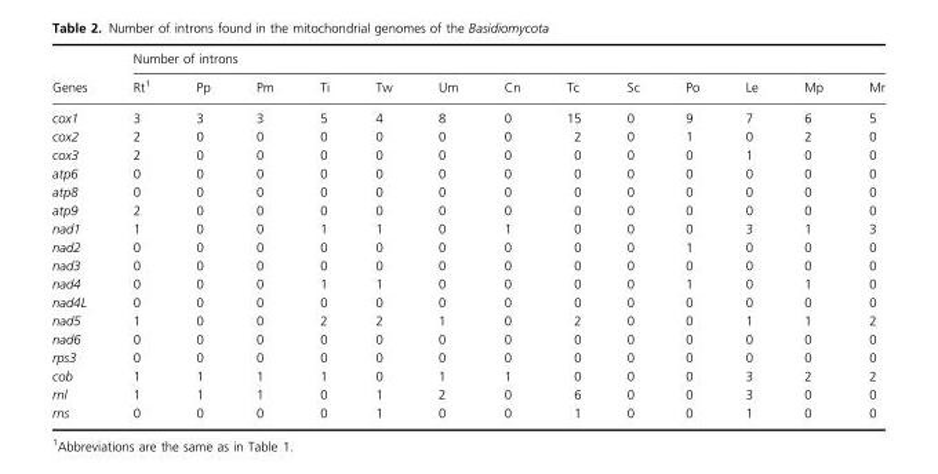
<table><thead><tr><td rowspan="2">Genes</td><td colspan="13">Number of introns</td></tr><tr><td>Rt<sup>1</sup></td><td>Pp</td><td>Pm</td><td>Ti</td><td>Tw</td><td>Um</td><td>Cn</td><td>Tc</td><td>Sc</td><td>Po</td><td>Le</td><td>Mp</td><td>Mr</td></tr></thead><tbody><tr><td>cox1</td><td>3</td><td>3</td><td>3</td><td>5</td><td>4</td><td>8</td><td>0</td><td>15</td><td>0</td><td>9</td><td>7</td><td>6</td><td>5</td></tr><tr><td>cox2</td><td>2</td><td>0</td><td>0</td><td>0</td><td>0</td><td>0</td><td>0</td><td>2</td><td>0</td><td>1</td><td>0</td><td>2</td><td>0</td></tr><tr><td>cox3</td><td>2</td><td>0</td><td>0</td><td>0</td><td>0</td><td>0</td><td>0</td><td>0</td><td>0</td><td>0</td><td>1</td><td>0</td><td>0</td></tr><tr><td>atp6</td><td>0</td><td>0</td><td>0</td><td>0</td><td>0</td><td>0</td><td>0</td><td>0</td><td>0</td><td>0</td><td>0</td><td>0</td><td>0</td></tr><tr><td>atp8</td><td>0</td><td>0</td><td>0</td><td>0</td><td>0</td><td>0</td><td>0</td><td>0</td><td>0</td><td>0</td><td>0</td><td>0</td><td>0</td></tr><tr><td>atp9</td><td>2</td><td>0</td><td>0</td><td>0</td><td>0</td><td>0</td><td>0</td><td>0</td><td>0</td><td>0</td><td>0</td><td>0</td><td>0</td></tr><tr><td>nad1</td><td>1</td><td>0</td><td>0</td><td>1</td><td>1</td><td>0</td><td>1</td><td>0</td><td>0</td><td>0</td><td>3</td><td>1</td><td>3</td></tr><tr><td>nad2</td><td>0</td><td>0</td><td>0</td><td>0</td><td>0</td><td>0</td><td>0</td><td>0</td><td>0</td><td>1</td><td>0</td><td>0</td><td>0</td></tr><tr><td>nad3</td><td>0</td><td>0</td><td>0</td><td>0</td><td>0</td><td>0</td><td>0</td><td>0</td><td>0</td><td>0</td><td>0</td><td>0</td><td>0</td></tr><tr><td>nad4</td><td>0</td><td>0</td><td>0</td><td>1</td><td>1</td><td>0</td><td>0</td><td>0</td><td>0</td><td>1</td><td>0</td><td>1</td><td>0</td></tr><tr><td>nad4L</td><td>0</td><td>0</td><td>0</td><td>0</td><td>0</td><td>0</td><td>0</td><td>0</td><td>0</td><td>0</td><td>0</td><td>0</td><td>0</td></tr><tr><td>nad5</td><td>1</td><td>0</td><td>0</td><td>2</td><td>2</td><td>1</td><td>0</td><td>2</td><td>0</td><td>0</td><td>1</td><td>1</td><td>2</td></tr><tr><td>nad6</td><td>0</td><td>0</td><td>0</td><td>0</td><td>0</td><td>0</td><td>0</td><td>0</td><td>0</td><td>0</td><td>0</td><td>0</td><td>0</td></tr><tr><td>rps3</td><td>0</td><td>0</td><td>0</td><td>0</td><td>0</td><td>0</td><td>0</td><td>0</td><td>0</td><td>0</td><td>0</td><td>0</td><td>0</td></tr><tr><td>cob</td><td>1</td><td>1</td><td>1</td><td>1</td><td>0</td><td>1</td><td>1</td><td>0</td><td>0</td><td>0</td><td>3</td><td>2</td><td>2</td></tr><tr><td>rnl</td><td>1</td><td>1</td><td>1</td><td>0</td><td>1</td><td>2</td><td>0</td><td>6</td><td>0</td><td>0</td><td>3</td><td>0</td><td>0</td></tr><tr><td>rns</td><td>0</td><td>0</td><td>0</td><td>0</td><td>1</td><td>0</td><td>0</td><td>1</td><td>0</td><td>0</td><td>1</td><td>0</td><td>0</td></tr></tbody></table>